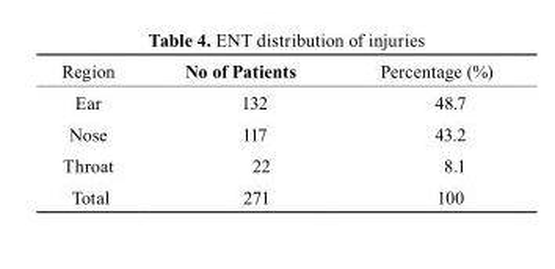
<table><thead><tr><td>Region</td><td>No of Patients</td><td>Percentage (%)</td></tr></thead><tbody><tr><td>Ear</td><td>132</td><td>48.7</td></tr><tr><td>Nose</td><td>117</td><td>43.2</td></tr><tr><td>Throat</td><td>22</td><td>8.1</td></tr><tr><td>Total</td><td>271</td><td>100</td></tr></tbody></table>